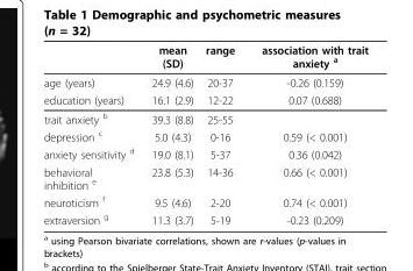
<table><thead><tr><td></td><td>mean (SD)</td><td>range</td><td>association with trait anxiety <sup>a</sup></td></tr></thead><tbody><tr><td>age (years)</td><td>24.9 (4.6)</td><td>20-37</td><td>-0.26 (0.159)</td></tr><tr><td>education (years)</td><td>16.1 (2.9)</td><td>12-22</td><td>0.07 (0.688)</td></tr><tr><td>trait anxiety <sup>b</sup></td><td>39.3 (8.8)</td><td>25-55</td><td></td></tr><tr><td>depression <sup>c</sup></td><td>5.0 (4.3)</td><td>0-16</td><td>0.59 (&lt; 0.001)</td></tr><tr><td>anxiety sensitivity <sup>d</sup></td><td>19.0 (8.1)</td><td>5-37</td><td>0.36 (0.042)</td></tr><tr><td>behavioral inhibition <sup>e</sup></td><td>23.8 (5.3)</td><td>14-36</td><td>0.66 (&lt; 0.001)</td></tr><tr><td>neuroticism <sup>f</sup></td><td>9.5 (4.6)</td><td>2-20</td><td>0.74 (&lt; 0.001)</td></tr><tr><td>extraversion <sup>g</sup></td><td>11.3 (3.7)</td><td>5-19</td><td>-0.23 (0.209)</td></tr></tbody></table>